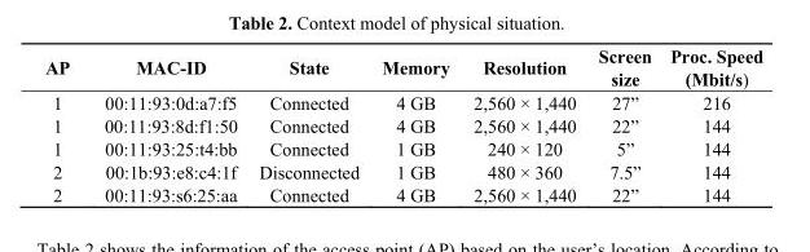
<table><thead><tr><td>AP</td><td>MAC-ID</td><td>State</td><td>Memory</td><td>Resolution</td><td>Screen size</td><td>Proc. Speed (Mbit/s)</td></tr></thead><tbody><tr><td>1</td><td>00:11:93:0d:a7:f5</td><td>Connected</td><td>4 GB</td><td>2,560 × 1,440</td><td>27”</td><td>216</td></tr><tr><td>1</td><td>00:11:93:8d:f1:50</td><td>Connected</td><td>4 GB</td><td>2,560 × 1,440</td><td>22”</td><td>144</td></tr><tr><td>1</td><td>00:11:93:25:t4:bb</td><td>Connected</td><td>1 GB</td><td>240 × 120</td><td>5”</td><td>144</td></tr><tr><td>2</td><td>00:1b:93:e8:c4:1f</td><td>Disconnected</td><td>1 GB</td><td>480 × 360</td><td>7.5”</td><td>144</td></tr><tr><td>2</td><td>00:11:93:s6:25:aa</td><td>Connected</td><td>4 GB</td><td>2,560 × 1,440</td><td>22”</td><td>144</td></tr></tbody></table>